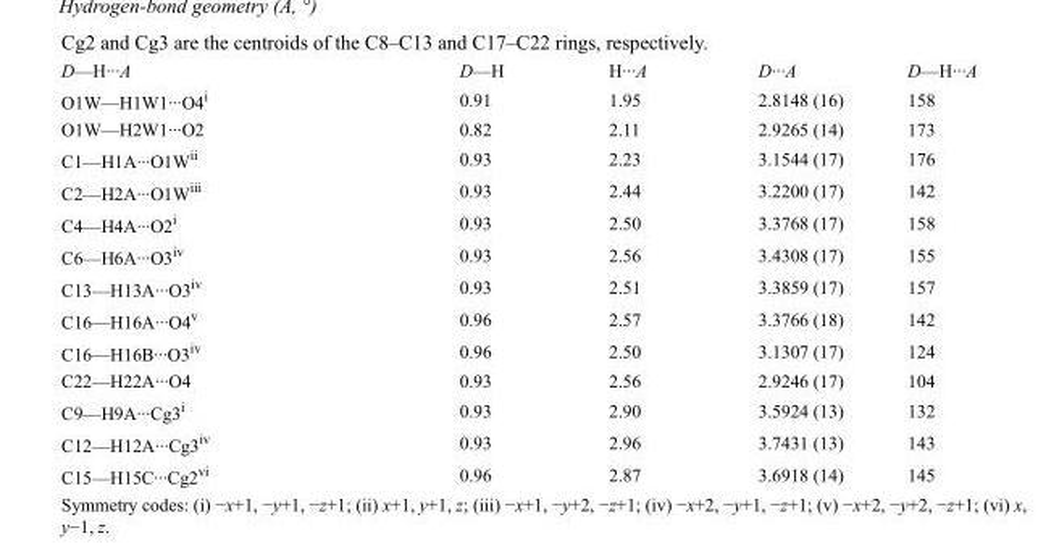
<table><tbody><tr><td>D—H···A</td><td>D—H</td><td>H···A</td><td>D···A</td><td>D—H···A</td></tr><tr><td>O1W—H1W1···O4<sup>i</sup></td><td>0.91</td><td>1.95</td><td>2.8148 (16)</td><td>158</td></tr><tr><td>O1W—H2W1···O2</td><td>0.82</td><td>2.11</td><td>2.9265 (14)</td><td>173</td></tr><tr><td>C1—H1A···O1W<sup>ii</sup></td><td>0.93</td><td>2.23</td><td>3.1544 (17)</td><td>176</td></tr><tr><td>C2—H2A···O1W<sup>iii</sup></td><td>0.93</td><td>2.44</td><td>3.2200 (17)</td><td>142</td></tr><tr><td>C4—H4A···O2<sup>i</sup></td><td>0.93</td><td>2.50</td><td>3.3768 (17)</td><td>158</td></tr><tr><td>C6—H6A···O3<sup>iv</sup></td><td>0.93</td><td>2.56</td><td>3.4308 (17)</td><td>155</td></tr><tr><td>C13—H13A···O3<sup>iv</sup></td><td>0.93</td><td>2.51</td><td>3.3859 (17)</td><td>157</td></tr><tr><td>C16—H16A···O4<sup>v</sup></td><td>0.96</td><td>2.57</td><td>3.3766 (18)</td><td>142</td></tr><tr><td>C16—H16B···O3<sup>iv</sup></td><td>0.96</td><td>2.50</td><td>3.1307 (17)</td><td>124</td></tr><tr><td>C22—H22A···O4</td><td>0.93</td><td>2.56</td><td>2.9246 (17)</td><td>104</td></tr><tr><td>C9—H9A···Cg3<sup>i</sup></td><td>0.93</td><td>2.90</td><td>3.5924 (13)</td><td>132</td></tr><tr><td>C12—H12A···Cg3<sup>iv</sup></td><td>0.93</td><td>2.96</td><td>3.7431 (13)</td><td>143</td></tr><tr><td>C15—H15C···Cg2<sup>vi</sup></td><td>0.96</td><td>2.87</td><td>3.6918 (14)</td><td>145</td></tr></tbody></table>